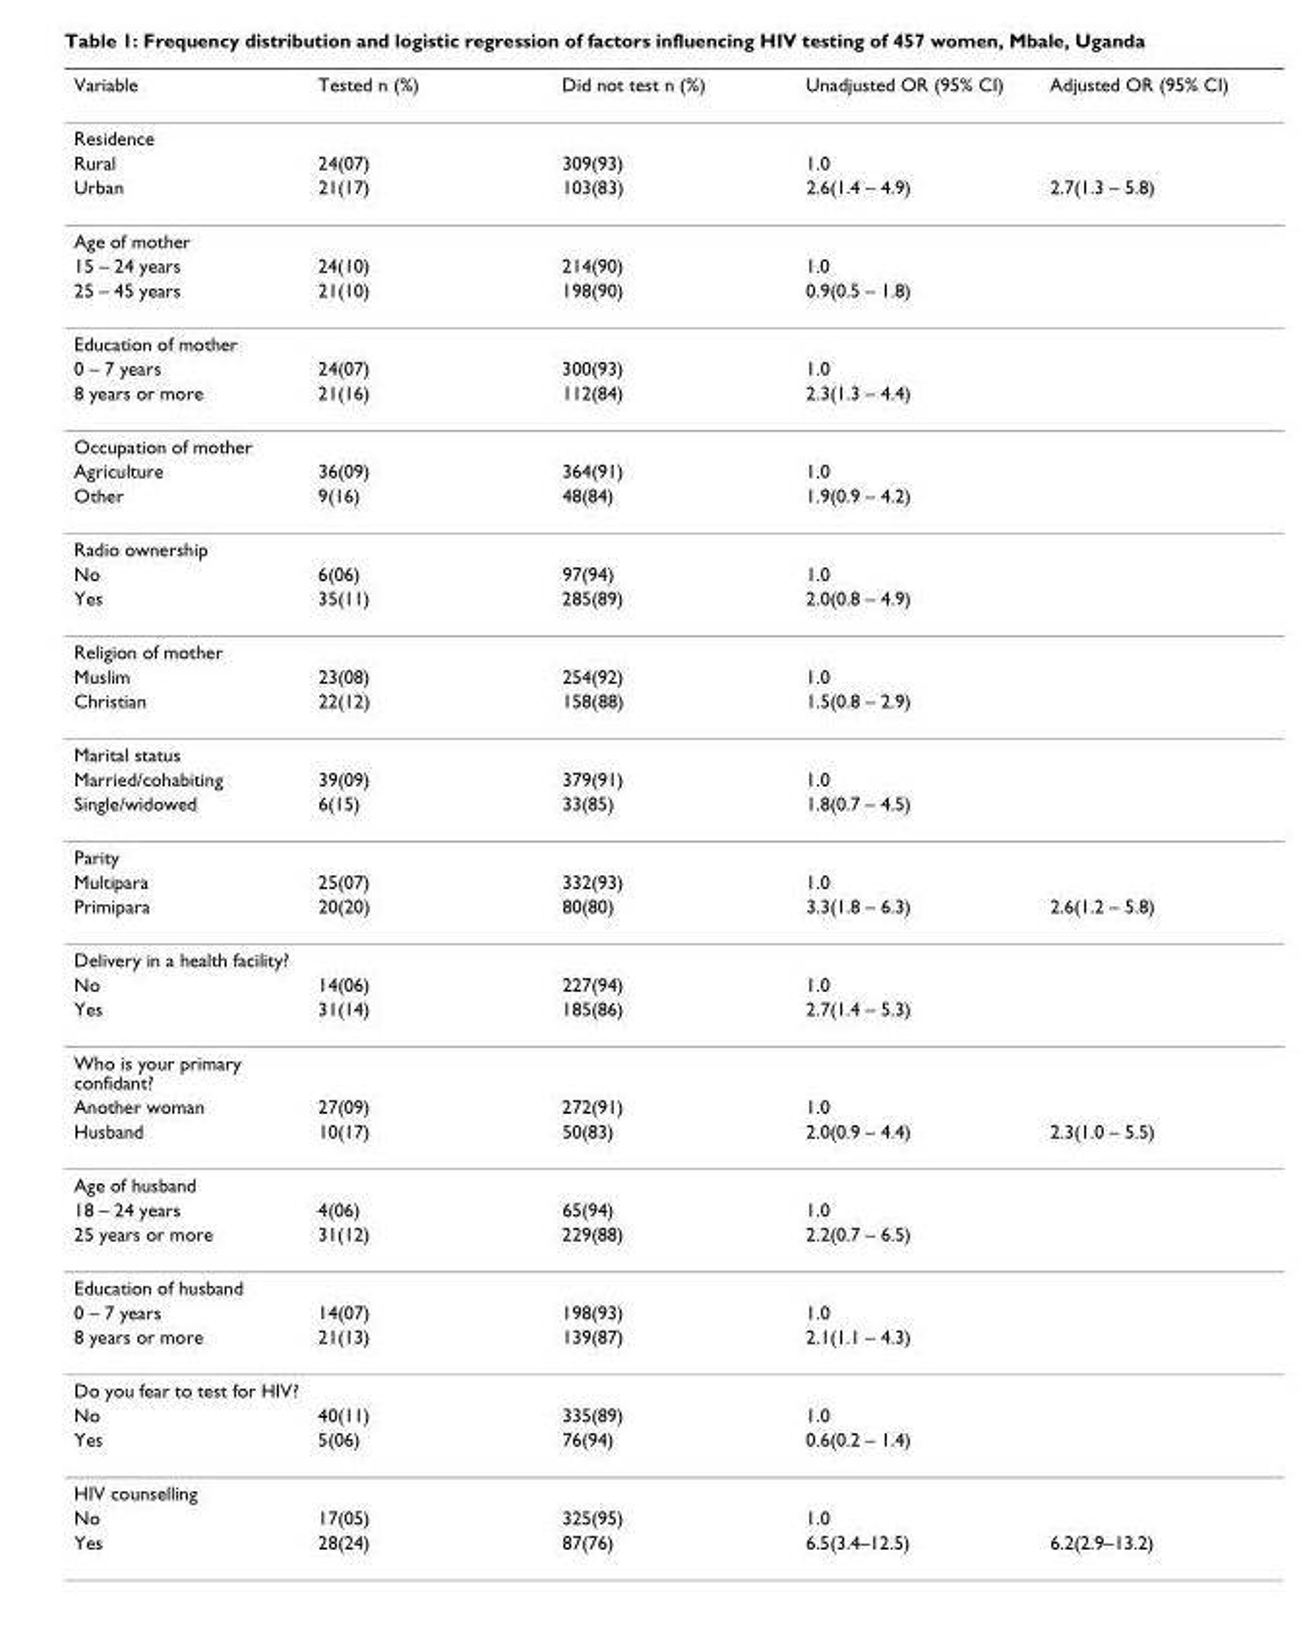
<table><thead><tr><td>Variable</td><td>Tested n (%)</td><td>Did not test n (%)</td><td>Unadjusted OR (95% CI)</td><td>Adjusted OR (95% CI)</td></tr></thead><tbody><tr><td colspan="5">Residence</td></tr><tr><td>Rural</td><td>24(07)</td><td>309(93)</td><td>1.0</td><td></td></tr><tr><td>Urban</td><td>21(17)</td><td>103(83)</td><td>2.6(1.4 – 4.9)</td><td>2.7(1.3 – 5.8)</td></tr><tr><td colspan="5">Age of mother</td></tr><tr><td>15 – 24 years</td><td>24(10)</td><td>214(90)</td><td>1.0</td><td></td></tr><tr><td>25 – 45 years</td><td>21(10)</td><td>198(90)</td><td>0.9(0.5 – 1.8)</td><td></td></tr><tr><td colspan="5">Education of mother</td></tr><tr><td>0 – 7 years</td><td>24(07)</td><td>300(93)</td><td>1.0</td><td></td></tr><tr><td>8 years or more</td><td>21(16)</td><td>112(84)</td><td>2.3(1.3 – 4.4)</td><td></td></tr><tr><td colspan="5">Occupation of mother</td></tr><tr><td>Agriculture</td><td>36(09)</td><td>364(91)</td><td>1.0</td><td></td></tr><tr><td>Other</td><td>9(16)</td><td>48(84)</td><td>1.9(0.9 – 4.2)</td><td></td></tr><tr><td colspan="5">Radio ownership</td></tr><tr><td>No</td><td>6(06)</td><td>97(94)</td><td>1.0</td><td></td></tr><tr><td>Yes</td><td>35(11)</td><td>285(89)</td><td>2.0(0.8 – 4.9)</td><td></td></tr><tr><td colspan="5">Religion of mother</td></tr><tr><td>Muslim</td><td>23(08)</td><td>254(92)</td><td>1.0</td><td></td></tr><tr><td>Christian</td><td>22(12)</td><td>158(88)</td><td>1.5(0.8 – 2.9)</td><td></td></tr><tr><td colspan="5">Marital status</td></tr><tr><td>Married/cohabiting</td><td>39(09)</td><td>379(91)</td><td>1.0</td><td></td></tr><tr><td>Single/widowed</td><td>6(15)</td><td>33(85)</td><td>1.8(0.7 – 4.5)</td><td></td></tr><tr><td colspan="5">Parity</td></tr><tr><td>Multipara</td><td>25(07)</td><td>332(93)</td><td>1.0</td><td></td></tr><tr><td>Primipara</td><td>20(20)</td><td>80(80)</td><td>3.3(1.8 – 6.3)</td><td>2.6(1.2 – 5.8)</td></tr><tr><td colspan="5">Delivery in a health facility?</td></tr><tr><td>No</td><td>14(06)</td><td>227(94)</td><td>1.0</td><td></td></tr><tr><td>Yes</td><td>31(14)</td><td>185(86)</td><td>2.7(1.4 – 5.3)</td><td></td></tr><tr><td colspan="5">Who is your primary confidant?</td></tr><tr><td>Another woman</td><td>27(09)</td><td>272(91)</td><td>1.0</td><td></td></tr><tr><td>Husband</td><td>10(17)</td><td>50(83)</td><td>2.0(0.9 – 4.4)</td><td>2.3(1.0 – 5.5)</td></tr><tr><td colspan="5">Age of husband</td></tr><tr><td>18 – 24 years</td><td>4(06)</td><td>65(94)</td><td>1.0</td><td></td></tr><tr><td>25 years or more</td><td>31(12)</td><td>229(88)</td><td>2.2(0.7 – 6.5)</td><td></td></tr><tr><td colspan="5">Education of husband</td></tr><tr><td>0 – 7 years</td><td>14(07)</td><td>198(93)</td><td>1.0</td><td></td></tr><tr><td>8 years or more</td><td>21(13)</td><td>139(87)</td><td>2.1(1.1 – 4.3)</td><td></td></tr><tr><td colspan="5">Do you fear to test for HIV?</td></tr><tr><td>No</td><td>40(11)</td><td>335(89)</td><td>1.0</td><td></td></tr><tr><td>Yes</td><td>5(06)</td><td>76(94)</td><td>0.6(0.2 – 1.4)</td><td></td></tr><tr><td colspan="5">HIV counselling</td></tr><tr><td>No</td><td>17(05)</td><td>325(95)</td><td>1.0</td><td></td></tr><tr><td>Yes</td><td>28(24)</td><td>87(76)</td><td>6.5(3.4–12.5)</td><td>6.2(2.9–13.2)</td></tr></tbody></table>